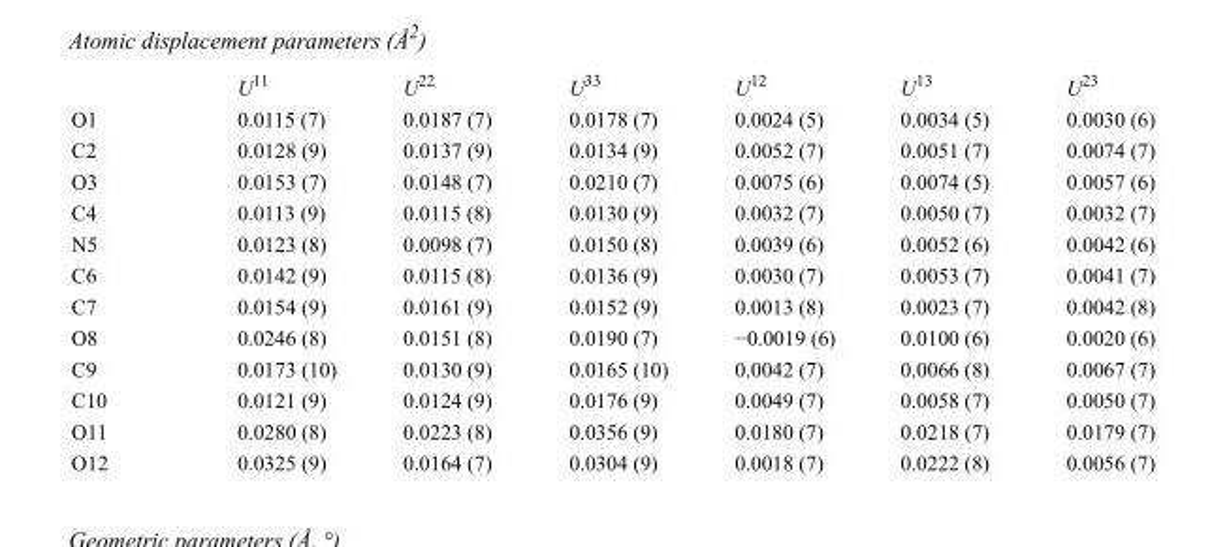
<table><thead><tr><td></td><td>U<sup>11</sup></td><td>U<sup>22</sup></td><td>U<sup>33</sup></td><td>U<sup>12</sup></td><td>U<sup>13</sup></td><td>U<sup>23</sup></td></tr></thead><tbody><tr><td>O1</td><td>0.0115 (7)</td><td>0.0187 (7)</td><td>0.0178 (7)</td><td>0.0024 (5)</td><td>0.0034 (5)</td><td>0.0030 (6)</td></tr><tr><td>C2</td><td>0.0128 (9)</td><td>0.0137 (9)</td><td>0.0134 (9)</td><td>0.0052 (7)</td><td>0.0051 (7)</td><td>0.0074 (7)</td></tr><tr><td>O3</td><td>0.0153 (7)</td><td>0.0148 (7)</td><td>0.0210 (7)</td><td>0.0075 (6)</td><td>0.0074 (5)</td><td>0.0057 (6)</td></tr><tr><td>C4</td><td>0.0113 (9)</td><td>0.0115 (8)</td><td>0.0130 (9)</td><td>0.0032 (7)</td><td>0.0050 (7)</td><td>0.0032 (7)</td></tr><tr><td>N5</td><td>0.0123 (8)</td><td>0.0098 (7)</td><td>0.0150 (8)</td><td>0.0039 (6)</td><td>0.0052 (6)</td><td>0.0042 (6)</td></tr><tr><td>C6</td><td>0.0142 (9)</td><td>0.0115 (8)</td><td>0.0136 (9)</td><td>0.0030 (7)</td><td>0.0053 (7)</td><td>0.0041 (7)</td></tr><tr><td>C7</td><td>0.0154 (9)</td><td>0.0161 (9)</td><td>0.0152 (9)</td><td>0.0013 (8)</td><td>0.0023 (7)</td><td>0.0042 (8)</td></tr><tr><td>O8</td><td>0.0246 (8)</td><td>0.0151 (8)</td><td>0.0190 (7)</td><td>−0.0019 (6)</td><td>0.0100 (6)</td><td>0.0020 (6)</td></tr><tr><td>C9</td><td>0.0173 (10)</td><td>0.0130 (9)</td><td>0.0165 (10)</td><td>0.0042 (7)</td><td>0.0066 (8)</td><td>0.0067 (7)</td></tr><tr><td>C10</td><td>0.0121 (9)</td><td>0.0124 (9)</td><td>0.0176 (9)</td><td>0.0049 (7)</td><td>0.0058 (7)</td><td>0.0050 (7)</td></tr><tr><td>O11</td><td>0.0280 (8)</td><td>0.0223 (8)</td><td>0.0356 (9)</td><td>0.0180 (7)</td><td>0.0218 (7)</td><td>0.0179 (7)</td></tr><tr><td>O12</td><td>0.0325 (9)</td><td>0.0164 (7)</td><td>0.0304 (9)</td><td>0.0018 (7)</td><td>0.0222 (8)</td><td>0.0056 (7)</td></tr></tbody></table>